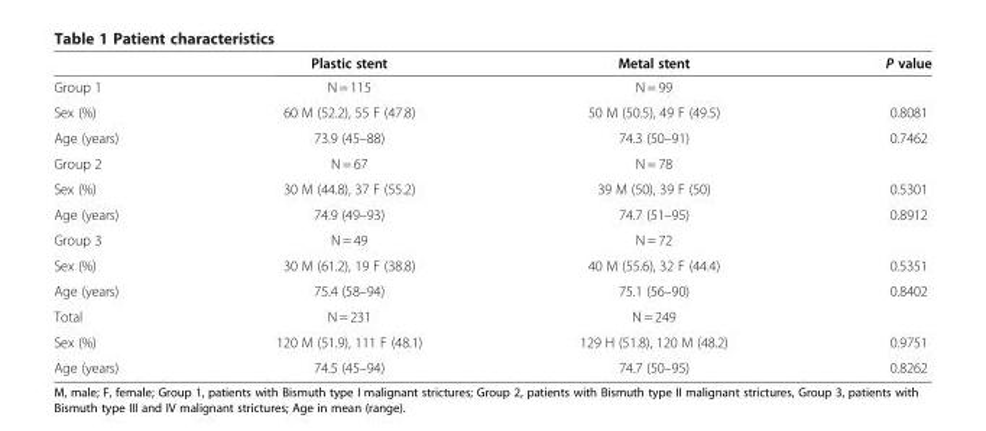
<table><thead><tr><td></td><td>Plastic stent</td><td>Metal stent</td><td>P value</td></tr></thead><tbody><tr><td>Group 1</td><td>N = 115</td><td>N = 99</td><td></td></tr><tr><td>Sex (%)</td><td>60 M (52.2), 55 F (47.8)</td><td>50 M (50.5), 49 F (49.5)</td><td>0.8081</td></tr><tr><td>Age (years)</td><td>73.9 (45–88)</td><td>74.3 (50–91)</td><td>0.7462</td></tr><tr><td>Group 2</td><td>N = 67</td><td>N = 78</td><td></td></tr><tr><td>Sex (%)</td><td>30 M (44.8), 37 F (55.2)</td><td>39 M (50), 39 F (50)</td><td>0.5301</td></tr><tr><td>Age (years)</td><td>74.9 (49–93)</td><td>74.7 (51–95)</td><td>0.8912</td></tr><tr><td>Group 3</td><td>N = 49</td><td>N = 72</td><td></td></tr><tr><td>Sex (%)</td><td>30 M (61.2), 19 F (38.8)</td><td>40 M (55.6), 32 F (44.4)</td><td>0.5351</td></tr><tr><td>Age (years)</td><td>75.4 (58–94)</td><td>75.1 (56–90)</td><td>0.8402</td></tr><tr><td>Total</td><td>N = 231</td><td>N = 249</td><td></td></tr><tr><td>Sex (%)</td><td>120 M (51.9), 111 F (48.1)</td><td>129 H (51.8), 120 M (48.2)</td><td>0.9751</td></tr><tr><td>Age (years)</td><td>74.5 (45–94)</td><td>74.7 (50–95)</td><td>0.8262</td></tr></tbody></table>